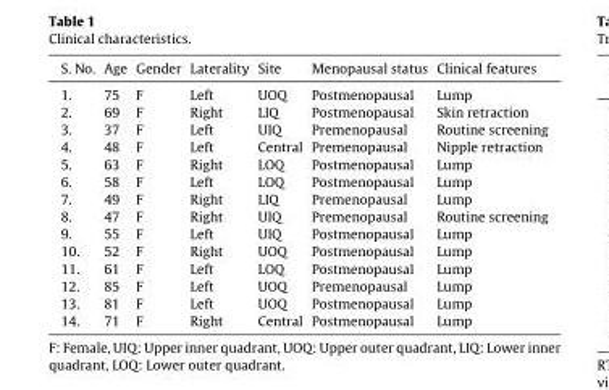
<table><thead><tr><td>S. No.</td><td>Age</td><td>Gender</td><td>Laterality</td><td>Site</td><td>Menopausal status</td><td>Clinical features</td></tr></thead><tbody><tr><td>1.</td><td>75</td><td>F</td><td>Left</td><td>UOQ</td><td>Postmenopausal</td><td>Lump</td></tr><tr><td>2.</td><td>69</td><td>F</td><td>Right</td><td>LIQ</td><td>Postmenopausal</td><td>Skin retraction</td></tr><tr><td>3.</td><td>37</td><td>F</td><td>Left</td><td>UIQ</td><td>Premenopausal</td><td>Routine screening</td></tr><tr><td>4.</td><td>48</td><td>F</td><td>Left</td><td>Central</td><td>Premenopausal</td><td>Nipple retraction</td></tr><tr><td>5.</td><td>63</td><td>F</td><td>Right</td><td>LOQ</td><td>Postmenopausal</td><td>Lump</td></tr><tr><td>6.</td><td>58</td><td>F</td><td>Left</td><td>LOQ</td><td>Postmenopausal</td><td>Lump</td></tr><tr><td>7.</td><td>49</td><td>F</td><td>Right</td><td>LIQ</td><td>Premenopausal</td><td>Lump</td></tr><tr><td>8.</td><td>47</td><td>F</td><td>Right</td><td>UIQ</td><td>Premenopausal</td><td>Routine screening</td></tr><tr><td>9.</td><td>55</td><td>F</td><td>Left</td><td>UIQ</td><td>Postmenopausal</td><td>Lump</td></tr><tr><td>10.</td><td>52</td><td>F</td><td>Right</td><td>UOQ</td><td>Postmenopausal</td><td>Lump</td></tr><tr><td>11.</td><td>61</td><td>F</td><td>Left</td><td>LOQ</td><td>Postmenopausal</td><td>Lump</td></tr><tr><td>12.</td><td>85</td><td>F</td><td>Left</td><td>UOQ</td><td>Premenopausal</td><td>Lump</td></tr><tr><td>13.</td><td>81</td><td>F</td><td>Left</td><td>UOQ</td><td>Postmenopausal</td><td>Lump</td></tr><tr><td>14.</td><td>71</td><td>F</td><td>Right</td><td>Central</td><td>Postmenopausal</td><td>Lump</td></tr></tbody></table>